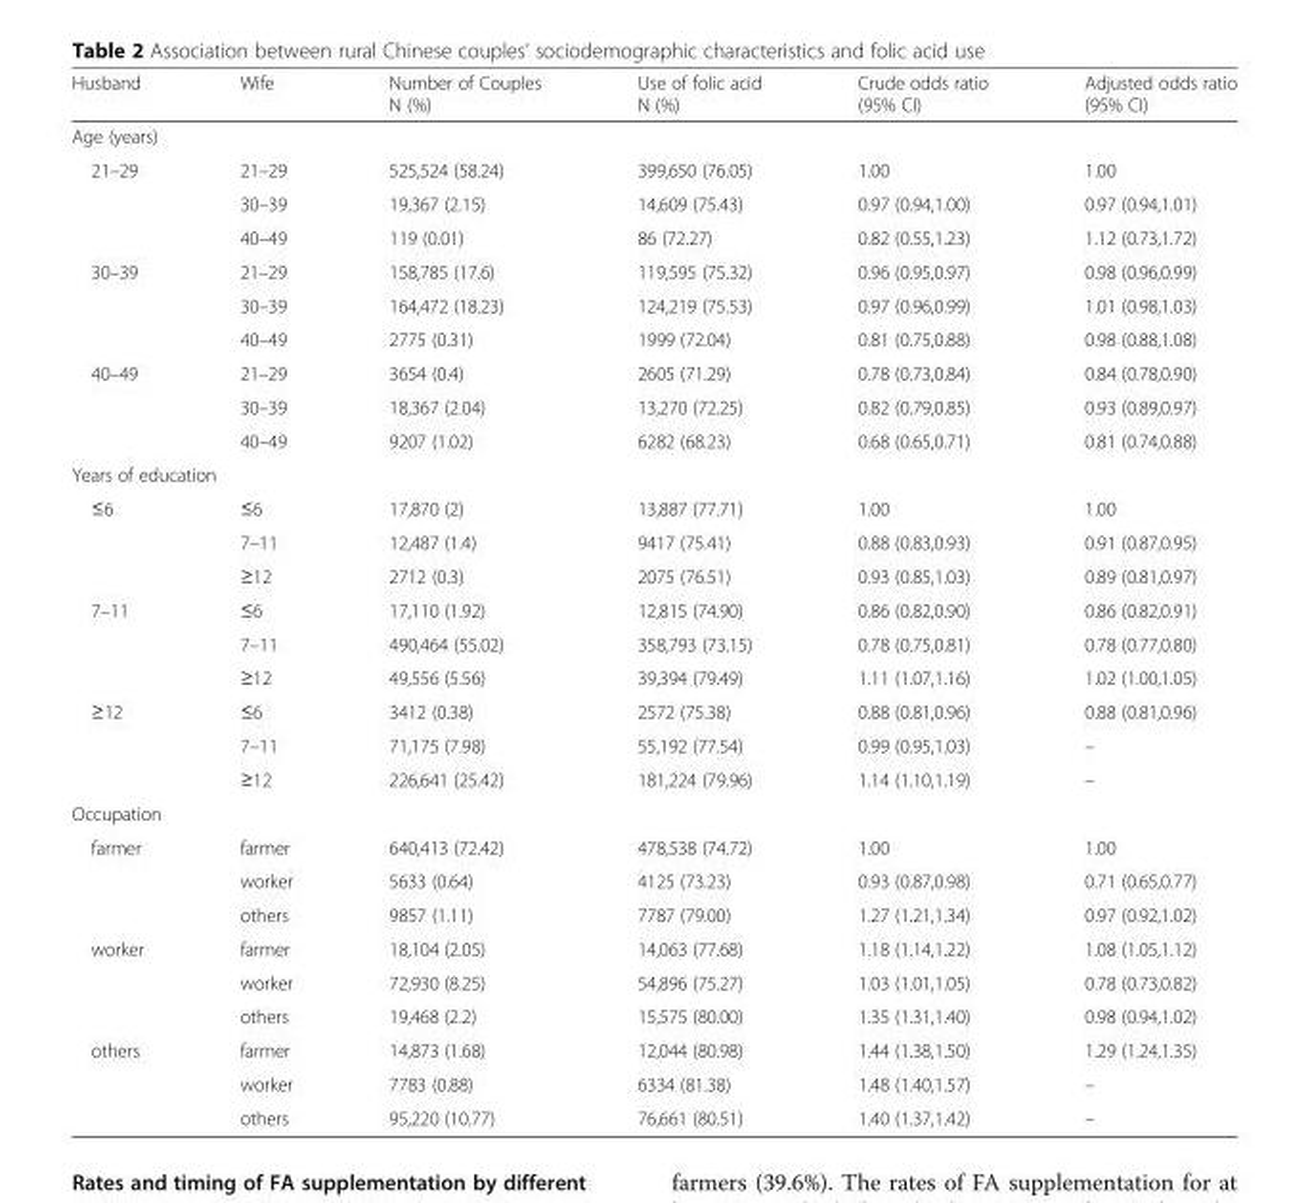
<table><thead><tr><td>Husband</td><td>Wife</td><td>Number of Couples N (%)</td><td>Use of folic acid N (%)</td><td>Crude odds ratio (95% CI)</td><td>Adjusted odds ratio (95% CI)</td></tr></thead><tbody><tr><td colspan="6">Age (years)</td></tr><tr><td rowspan="3">21–29</td><td>21–29</td><td>525,524 (58.24)</td><td>399,650 (76.05)</td><td>1.00</td><td>1.00</td></tr><tr><td>30–39</td><td>19,367 (2.15)</td><td>14,609 (75.43)</td><td>0.97 (0.94,1.00)</td><td>0.97 (0.94,1.01)</td></tr><tr><td>40–49</td><td>119 (0.01)</td><td>86 (72.27)</td><td>0.82 (0.55,1.23)</td><td>1.12 (0.73,1.72)</td></tr><tr><td rowspan="3">30–39</td><td>21–29</td><td>158,785 (17.6)</td><td>119,595 (75.32)</td><td>0.96 (0.95,0.97)</td><td>0.98 (0.96,0.99)</td></tr><tr><td>30–39</td><td>164,472 (18.23)</td><td>124,219 (75.53)</td><td>0.97 (0.96,0.99)</td><td>1.01 (0.98,1.03)</td></tr><tr><td>40–49</td><td>2775 (0.31)</td><td>1999 (72.04)</td><td>0.81 (0.75,0.88)</td><td>0.98 (0.88,1.08)</td></tr><tr><td rowspan="3">40–49</td><td>21–29</td><td>3654 (0.4)</td><td>2605 (71.29)</td><td>0.78 (0.73,0.84)</td><td>0.84 (0.78,0.90)</td></tr><tr><td>30–39</td><td>18,367 (2.04)</td><td>13,270 (72.25)</td><td>0.82 (0.79,0.85)</td><td>0.93 (0.89,0.97)</td></tr><tr><td>40–49</td><td>9207 (1.02)</td><td>6282 (68.23)</td><td>0.68 (0.65,0.71)</td><td>0.81 (0.74,0.88)</td></tr><tr><td colspan="6">Years of education</td></tr><tr><td rowspan="3">≤6</td><td>≤6</td><td>17,870 (2)</td><td>13,887 (77.71)</td><td>1.00</td><td>1.00</td></tr><tr><td>7–11</td><td>12,487 (1.4)</td><td>9417 (75.41)</td><td>0.88 (0.83,0.93)</td><td>0.91 (0.87,0.95)</td></tr><tr><td>≥12</td><td>2712 (0.3)</td><td>2075 (76.51)</td><td>0.93 (0.85,1.03)</td><td>0.89 (0.81,0.97)</td></tr><tr><td rowspan="3">7–11</td><td>≤6</td><td>17,110 (1.92)</td><td>12,815 (74.90)</td><td>0.86 (0.82,0.90)</td><td>0.86 (0.82,0.91)</td></tr><tr><td>7–11</td><td>490,464 (55.02)</td><td>358,793 (73.15)</td><td>0.78 (0.75,0.81)</td><td>0.78 (0.77,0.80)</td></tr><tr><td>≥12</td><td>49,556 (5.56)</td><td>39,394 (79.49)</td><td>1.11 (1.07,1.16)</td><td>1.02 (1.00,1.05)</td></tr><tr><td rowspan="3">≥12</td><td>≤6</td><td>3412 (0.38)</td><td>2572 (75.38)</td><td>0.88 (0.81,0.96)</td><td>0.88 (0.81,0.96)</td></tr><tr><td>7–11</td><td>71,175 (7.98)</td><td>55,192 (77.54)</td><td>0.99 (0.95,1.03)</td><td>–</td></tr><tr><td>≥12</td><td>226,641 (25.42)</td><td>181,224 (79.96)</td><td>1.14 (1.10,1.19)</td><td>–</td></tr><tr><td colspan="6">Occupation</td></tr><tr><td rowspan="3">farmer</td><td>farmer</td><td>640,413 (72.42)</td><td>478,538 (74.72)</td><td>1.00</td><td>1.00</td></tr><tr><td>worker</td><td>5633 (0.64)</td><td>4125 (73.23)</td><td>0.93 (0.87,0.98)</td><td>0.71 (0.65,0.77)</td></tr><tr><td>others</td><td>9857 (1.11)</td><td>7787 (79.00)</td><td>1.27 (1.21,1.34)</td><td>0.97 (0.92,1.02)</td></tr><tr><td rowspan="3">worker</td><td>farmer</td><td>18,104 (2.05)</td><td>14,063 (77.68)</td><td>1.18 (1.14,1.22)</td><td>1.08 (1.05,1.12)</td></tr><tr><td>worker</td><td>72,930 (8.25)</td><td>54,896 (75.27)</td><td>1.03 (1.01,1.05)</td><td>0.78 (0.73,0.82)</td></tr><tr><td>others</td><td>19,468 (2.2)</td><td>15,575 (80.00)</td><td>1.35 (1.31,1.40)</td><td>0.98 (0.94,1.02)</td></tr><tr><td rowspan="3">others</td><td>farmer</td><td>14,873 (1.68)</td><td>12,044 (80.98)</td><td>1.44 (1.38,1.50)</td><td>1.29 (1.24,1.35)</td></tr><tr><td>worker</td><td>7783 (0.88)</td><td>6334 (81.38)</td><td>1.48 (1.40,1.57)</td><td>–</td></tr><tr><td>others</td><td>95,220 (10.77)</td><td>76,661 (80.51)</td><td>1.40 (1.37,1.42)</td><td>–</td></tr></tbody></table>